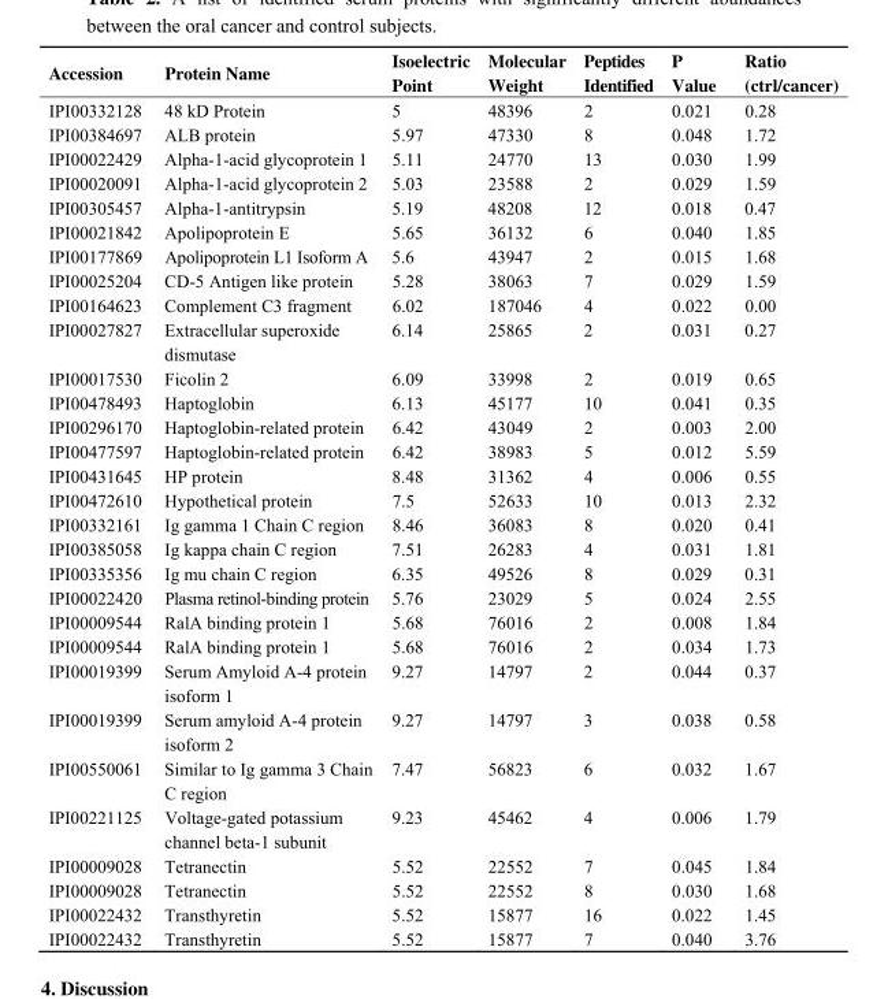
<table><thead><tr><td>Accession</td><td>Protein Name</td><td>Isoelectric Point</td><td>Molecular Weight</td><td>Peptides Identified</td><td>P Value</td><td>Ratio (ctrl/cancer)</td></tr></thead><tbody><tr><td>IPI00332128</td><td>48 kD Protein</td><td>5</td><td>48396</td><td>2</td><td>0.021</td><td>0.28</td></tr><tr><td>IPI00384697</td><td>ALB protein</td><td>5.97</td><td>47330</td><td>8</td><td>0.048</td><td>1.72</td></tr><tr><td>IPI00022429</td><td>Alpha-1-acid glycoprotein 1</td><td>5.11</td><td>24770</td><td>13</td><td>0.030</td><td>1.99</td></tr><tr><td>IPI00020091</td><td>Alpha-1-acid glycoprotein 2</td><td>5.03</td><td>23588</td><td>2</td><td>0.029</td><td>1.59</td></tr><tr><td>IPI00305457</td><td>Alpha-1-antitrypsin</td><td>5.19</td><td>48208</td><td>12</td><td>0.018</td><td>0.47</td></tr><tr><td>IPI00021842</td><td>Apolipoprotein E</td><td>5.65</td><td>36132</td><td>6</td><td>0.040</td><td>1.85</td></tr><tr><td>IPI00177869</td><td>Apolipoprotein L1 Isoform A</td><td>5.6</td><td>43947</td><td>2</td><td>0.015</td><td>1.68</td></tr><tr><td>IPI00025204</td><td>CD-5 Antigen like protein</td><td>5.28</td><td>38063</td><td>7</td><td>0.029</td><td>1.59</td></tr><tr><td>IPI00164623</td><td>Complement C3 fragment</td><td>6.02</td><td>187046</td><td>4</td><td>0.022</td><td>0.00</td></tr><tr><td>IPI00027827</td><td>Extracellular superoxide dismutase</td><td>6.14</td><td>25865</td><td>2</td><td>0.031</td><td>0.27</td></tr><tr><td>IPI00017530</td><td>Ficolin 2</td><td>6.09</td><td>33998</td><td>2</td><td>0.019</td><td>0.65</td></tr><tr><td>IPI00478493</td><td>Haptoglobin</td><td>6.13</td><td>45177</td><td>10</td><td>0.041</td><td>0.35</td></tr><tr><td>IPI00296170</td><td>Haptoglobin-related protein</td><td>6.42</td><td>43049</td><td>2</td><td>0.003</td><td>2.00</td></tr><tr><td>IPI00477597</td><td>Haptoglobin-related protein</td><td>6.42</td><td>38983</td><td>5</td><td>0.012</td><td>5.59</td></tr><tr><td>IPI00431645</td><td>HP protein</td><td>8.48</td><td>31362</td><td>4</td><td>0.006</td><td>0.55</td></tr><tr><td>IPI00472610</td><td>Hypothetical protein</td><td>7.5</td><td>52633</td><td>10</td><td>0.013</td><td>2.32</td></tr><tr><td>IPI00332161</td><td>Ig gamma 1 Chain C region</td><td>8.46</td><td>36083</td><td>8</td><td>0.020</td><td>0.41</td></tr><tr><td>IPI00385058</td><td>Ig kappa chain C region</td><td>7.51</td><td>26283</td><td>4</td><td>0.031</td><td>1.81</td></tr><tr><td>IPI00335356</td><td>Ig mu chain C region</td><td>6.35</td><td>49526</td><td>8</td><td>0.029</td><td>0.31</td></tr><tr><td>IPI00022420</td><td>Plasma retinol-binding protein</td><td>5.76</td><td>23029</td><td>5</td><td>0.024</td><td>2.55</td></tr><tr><td>IPI00009544</td><td>RalA binding protein 1</td><td>5.68</td><td>76016</td><td>2</td><td>0.008</td><td>1.84</td></tr><tr><td>IPI00009544</td><td>RalA binding protein 1</td><td>5.68</td><td>76016</td><td>2</td><td>0.034</td><td>1.73</td></tr><tr><td>IPI00019399</td><td>Serum Amyloid A-4 protein isoform 1</td><td>9.27</td><td>14797</td><td>2</td><td>0.044</td><td>0.37</td></tr><tr><td>IPI00019399</td><td>Serum amyloid A-4 protein isoform 2</td><td>9.27</td><td>14797</td><td>3</td><td>0.038</td><td>0.58</td></tr><tr><td>IPI00550061</td><td>Similar to Ig gamma 3 Chain C region</td><td>7.47</td><td>56823</td><td>6</td><td>0.032</td><td>1.67</td></tr><tr><td>IPI00221125</td><td>Voltage-gated potassium channel beta-1 subunit</td><td>9.23</td><td>45462</td><td>4</td><td>0.006</td><td>1.79</td></tr><tr><td>IPI00009028</td><td>Tetranectin</td><td>5.52</td><td>22552</td><td>7</td><td>0.045</td><td>1.84</td></tr><tr><td>IPI00009028</td><td>Tetranectin</td><td>5.52</td><td>22552</td><td>8</td><td>0.030</td><td>1.68</td></tr><tr><td>IPI00022432</td><td>Transthyretin</td><td>5.52</td><td>15877</td><td>16</td><td>0.022</td><td>1.45</td></tr><tr><td>IPI00022432</td><td>Transthyretin</td><td>5.52</td><td>15877</td><td>7</td><td>0.040</td><td>3.76</td></tr></tbody></table>